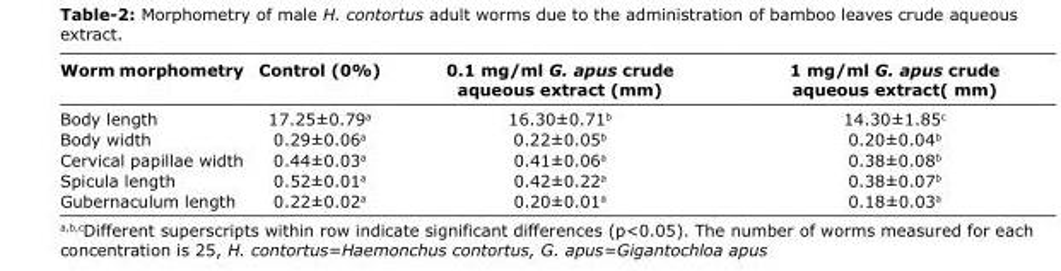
<table><thead><tr><td>Worm morphometry</td><td>Control (0%)</td><td>0.1 mg/ml G. apus crude aqueous extract (mm)</td><td>1 mg/ml G. apus crude aqueous extract( mm)</td></tr></thead><tbody><tr><td>Body length</td><td>17.25±0.79<sup>a</sup></td><td>16.30±0.71<sup>b</sup></td><td>14.30±1.85<sup>c</sup></td></tr><tr><td>Body width</td><td>0.29±0.06<sup>a</sup></td><td>0.22±0.05<sup>b</sup></td><td>0.20±0.04<sup>b</sup></td></tr><tr><td>Cervical papillae width</td><td>0.44±0.03<sup>a</sup></td><td>0.41±0.06<sup>a</sup></td><td>0.38±0.08<sup>b</sup></td></tr><tr><td>Spicula length</td><td>0.52±0.01<sup>a</sup></td><td>0.42±0.22<sup>a</sup></td><td>0.38±0.07<sup>b</sup></td></tr><tr><td>Gubernaculum length</td><td>0.22±0.02<sup>a</sup></td><td>0.20±0.01<sup>a</sup></td><td>0.18±0.03<sup>a</sup></td></tr></tbody></table>